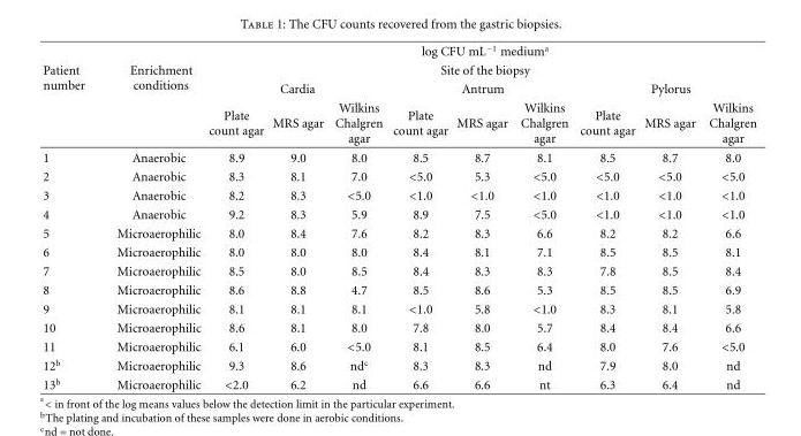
<table><thead><tr><td rowspan="4">Patient number</td><td rowspan="4">Enrichment conditions</td><td rowspan="2" colspan="9">log CFU mL<sup>−1</sup> medium<sup>a</sup> Site of the biopsy</td></tr><tr></tr><tr><td colspan="3">Cardia</td><td colspan="3">Antrum</td><td colspan="3">Pylorus</td></tr><tr><td>Plate count agar</td><td>MRS agar</td><td>Wilkins Chalgren agar</td><td>Plate count agar</td><td>MRS agar</td><td>Wilkins Chalgren agar</td><td>Plate count agar</td><td>MRS agar</td><td>Wilkins Chalgren agar</td></tr></thead><tbody><tr><td>1</td><td>Anaerobic</td><td>8.9</td><td>9.0</td><td>8.0</td><td>8.5</td><td>8.7</td><td>8.1</td><td>8.5</td><td>8.7</td><td>8.0</td></tr><tr><td>2</td><td>Anaerobic</td><td>8.3</td><td>8.1</td><td>7.0</td><td>&lt;5.0</td><td>5.3</td><td>&lt;5.0</td><td>&lt;5.0</td><td>&lt;5.0</td><td>&lt;5.0</td></tr><tr><td>3</td><td>Anaerobic</td><td>8.2</td><td>8.3</td><td>&lt;5.0</td><td>&lt;1.0</td><td>&lt;1.0</td><td>&lt;1.0</td><td>&lt;1.0</td><td>&lt;1.0</td><td>&lt;1.0</td></tr><tr><td>4</td><td>Anaerobic</td><td>9.2</td><td>8.3</td><td>5.9</td><td>8.9</td><td>7.5</td><td>&lt;5.0</td><td>&lt;1.0</td><td>&lt;1.0</td><td>&lt;1.0</td></tr><tr><td>5</td><td>Microaerophilic</td><td>8.0</td><td>8.4</td><td>7.6</td><td>8.2</td><td>8.3</td><td>6.6</td><td>8.2</td><td>8.2</td><td>6.6</td></tr><tr><td>6</td><td>Microaerophilic</td><td>8.0</td><td>8.0</td><td>8.0</td><td>8.4</td><td>8.1</td><td>7.1</td><td>8.5</td><td>8.5</td><td>8.1</td></tr><tr><td>7</td><td>Microaerophilic</td><td>8.5</td><td>8.0</td><td>8.5</td><td>8.4</td><td>8.3</td><td>8.3</td><td>7.8</td><td>8.5</td><td>8.4</td></tr><tr><td>8</td><td>Microaerophilic</td><td>8.6</td><td>8.8</td><td>4.7</td><td>8.5</td><td>8.6</td><td>5.3</td><td>8.5</td><td>8.5</td><td>6.9</td></tr><tr><td>9</td><td>Microaerophilic</td><td>8.1</td><td>8.1</td><td>8.1</td><td>&lt;1.0</td><td>5.8</td><td>&lt;1.0</td><td>8.3</td><td>8.1</td><td>5.8</td></tr><tr><td>10</td><td>Microaerophilic</td><td>8.6</td><td>8.1</td><td>8.0</td><td>7.8</td><td>8.0</td><td>5.7</td><td>8.4</td><td>8.4</td><td>6.6</td></tr><tr><td>11</td><td>Microaerophilic</td><td>6.1</td><td>6.0</td><td>&lt;5.0</td><td>8.1</td><td>8.5</td><td>6.4</td><td>8.0</td><td>7.6</td><td>&lt;5.0</td></tr><tr><td>12<sup>b</sup></td><td>Microaerophilic</td><td>9.3</td><td>8.6</td><td>nd<sup>c</sup></td><td>8.3</td><td>8.3</td><td>nd</td><td>7.9</td><td>8.0</td><td>nd</td></tr><tr><td>13<sup>b</sup></td><td>Microaerophilic</td><td>&lt;2.0</td><td>6.2</td><td>nd</td><td>6.6</td><td>6.6</td><td>nt</td><td>6.3</td><td>6.4</td><td>nd</td></tr></tbody></table>